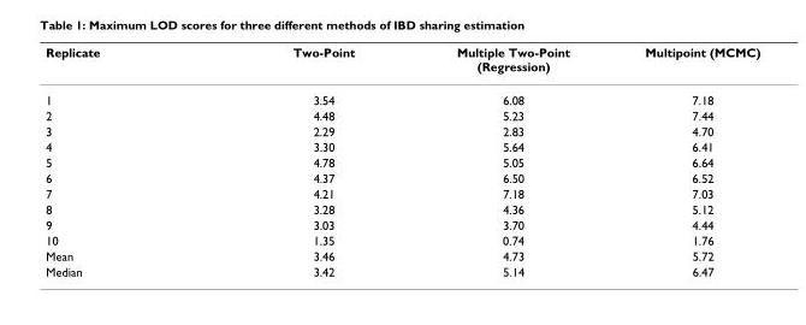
<table><thead><tr><td>Replicate</td><td>Two-Point</td><td>Multiple Two-Point (Regression)</td><td>Multipoint (MCMC)</td></tr></thead><tbody><tr><td>1</td><td>3.54</td><td>6.08</td><td>7.18</td></tr><tr><td>2</td><td>4.48</td><td>5.23</td><td>7.44</td></tr><tr><td>3</td><td>2.29</td><td>2.83</td><td>4.70</td></tr><tr><td>4</td><td>3.30</td><td>5.64</td><td>6.41</td></tr><tr><td>5</td><td>4.78</td><td>5.05</td><td>6.64</td></tr><tr><td>6</td><td>4.37</td><td>6.50</td><td>6.52</td></tr><tr><td>7</td><td>4.21</td><td>7.18</td><td>7.03</td></tr><tr><td>8</td><td>3.28</td><td>4.36</td><td>5.12</td></tr><tr><td>9</td><td>3.03</td><td>3.70</td><td>4.44</td></tr><tr><td>10</td><td>1.35</td><td>0.74</td><td>1.76</td></tr><tr><td>Mean</td><td>3.46</td><td>4.73</td><td>5.72</td></tr><tr><td>Median</td><td>3.42</td><td>5.14</td><td>6.47</td></tr></tbody></table>